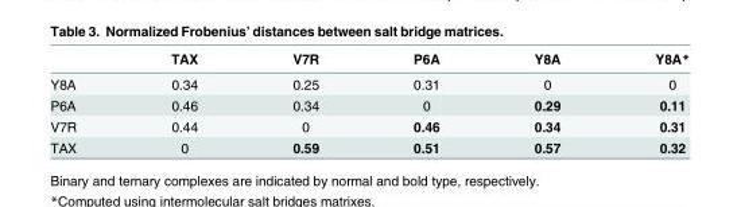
<table><thead><tr><td></td><td>TAX</td><td>V7R</td><td>P6A</td><td>Y8A</td><td>Y8A*</td></tr></thead><tbody><tr><td>Y8A</td><td>0.34</td><td>0.25</td><td>0.31</td><td>0</td><td>0</td></tr><tr><td>P6A</td><td>0.46</td><td>0.34</td><td>0</td><td>0.29</td><td>0.11</td></tr><tr><td>V7R</td><td>0.44</td><td>0</td><td>0.46</td><td>0.34</td><td>0.31</td></tr><tr><td>TAX</td><td>0</td><td>0.59</td><td>0.51</td><td>0.57</td><td>0.32</td></tr></tbody></table>